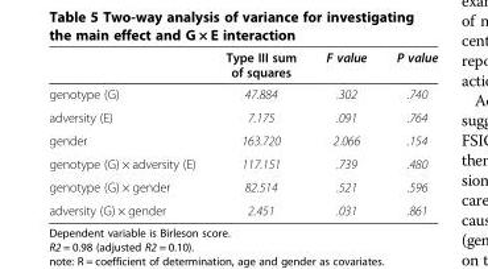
<table><thead><tr><td></td><td>Type III sum of squares</td><td>F value</td><td>P value</td></tr></thead><tbody><tr><td>genotype (G)</td><td>47.884</td><td>.302</td><td>.740</td></tr><tr><td>adversity (E)</td><td>7.175</td><td>.091</td><td>.764</td></tr><tr><td>gender</td><td>163.720</td><td>2.066</td><td>.154</td></tr><tr><td>genotype (G) × adversity (E)</td><td>117.151</td><td>.739</td><td>.480</td></tr><tr><td>genotype (G) × gender</td><td>82.514</td><td>.521</td><td>.596</td></tr><tr><td>adversity (G) × gender</td><td>2.451</td><td>.031</td><td>.861</td></tr></tbody></table>